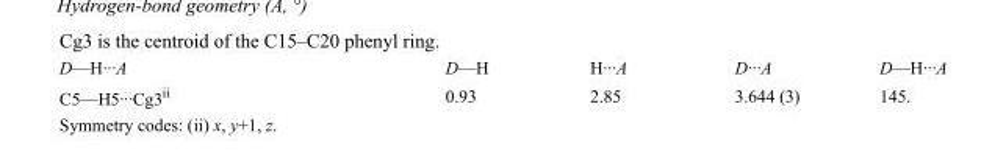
<table><tbody><tr><td>D—H···A</td><td>D—H</td><td>H···A</td><td>D···A</td><td>D—H···A</td></tr><tr><td>C5—H5···Cg3<sup>ii</sup></td><td>0.93</td><td>2.85</td><td>3.644 (3)</td><td>145.</td></tr></tbody></table>